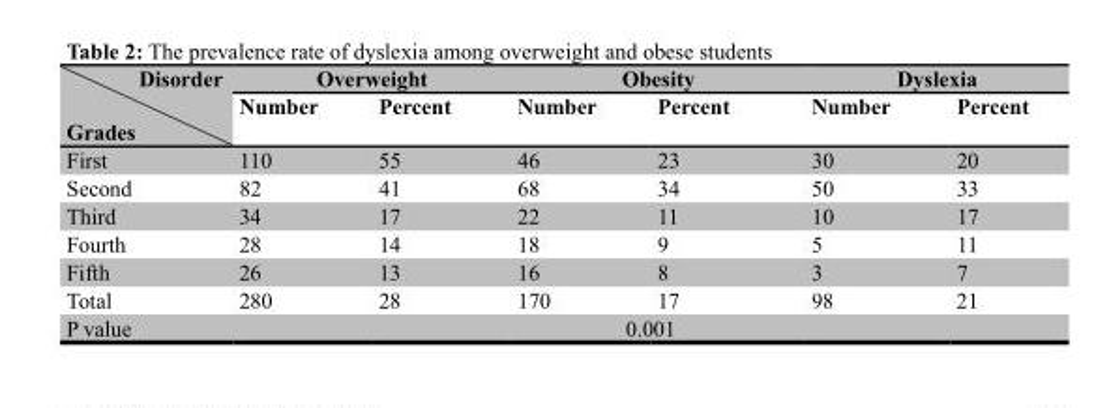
<table><thead><tr><td rowspan="2">Disorder Grades</td><td colspan="2">Overweight</td><td colspan="2">Obesity</td><td colspan="2">Dyslexia</td></tr><tr><td>Number</td><td>Percent</td><td>Number</td><td>Percent</td><td>Number</td><td>Percent</td></tr></thead><tbody><tr><td>First</td><td>110</td><td>55</td><td>46</td><td>23</td><td>30</td><td>20</td></tr><tr><td>Second</td><td>82</td><td>41</td><td>68</td><td>34</td><td>50</td><td>33</td></tr><tr><td>Third</td><td>34</td><td>17</td><td>22</td><td>11</td><td>10</td><td>17</td></tr><tr><td>Fourth</td><td>28</td><td>14</td><td>18</td><td>9</td><td>5</td><td>11</td></tr><tr><td>Fifth</td><td>26</td><td>13</td><td>16</td><td>8</td><td>3</td><td>7</td></tr><tr><td>Total</td><td>280</td><td>28</td><td>170</td><td>17</td><td>98</td><td>21</td></tr><tr><td>P value</td><td colspan="6">0.001</td></tr></tbody></table>